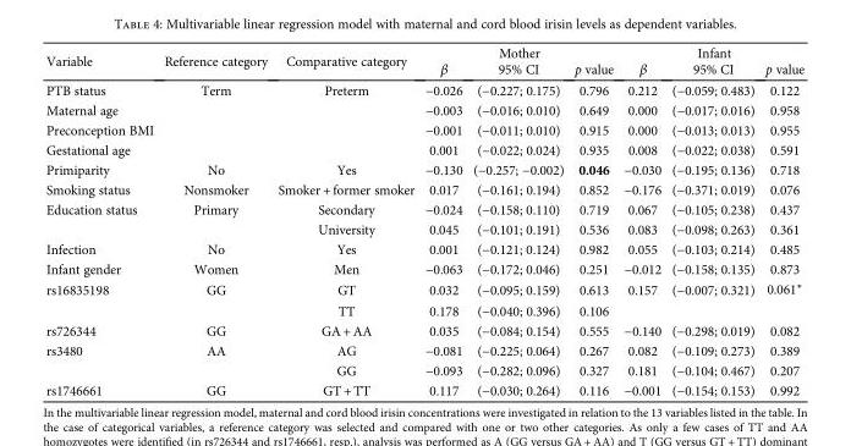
<table><thead><tr><td rowspan="2">Variable</td><td rowspan="2">Reference category</td><td rowspan="2">Comparative category</td><td colspan="3">Mother</td><td colspan="3">Infant</td></tr><tr><td>β</td><td>95% CI</td><td>p value</td><td>β</td><td>95% CI</td><td>p value</td></tr></thead><tbody><tr><td>PTB status</td><td>Term</td><td>Preterm</td><td>−0.026</td><td>(−0.227; 0.175)</td><td>0.796</td><td>0.212</td><td>(−0.059; 0.483)</td><td>0.122</td></tr><tr><td>Maternal age</td><td></td><td></td><td>−0.003</td><td>(−0.016; 0.010)</td><td>0.649</td><td>0.000</td><td>(−0.017; 0.016)</td><td>0.958</td></tr><tr><td>Preconception BMI</td><td></td><td></td><td>−0.001</td><td>(−0.011; 0.010)</td><td>0.915</td><td>0.000</td><td>(−0.013; 0.013)</td><td>0.955</td></tr><tr><td>Gestational age</td><td></td><td></td><td>0.001</td><td>(−0.022; 0.024)</td><td>0.935</td><td>0.008</td><td>(−0.022; 0.038)</td><td>0.591</td></tr><tr><td>Primiparity</td><td>No</td><td>Yes</td><td>−0.130</td><td>(−0.257; −0.002)</td><td>0.046</td><td>−0.030</td><td>(−0.195; 0.136)</td><td>0.718</td></tr><tr><td>Smoking status</td><td>Nonsmoker</td><td>Smoker + former smoker</td><td>0.017</td><td>(−0.161; 0.194)</td><td>0.852</td><td>−0.176</td><td>(−0.371; 0.019)</td><td>0.076</td></tr><tr><td rowspan="2">Education status</td><td>Primary</td><td>Secondary</td><td>−0.024</td><td>(−0.158; 0.110)</td><td>0.719</td><td>0.067</td><td>(−0.105; 0.238)</td><td>0.437</td></tr><tr><td></td><td>University</td><td>0.045</td><td>(−0.101; 0.191)</td><td>0.536</td><td>0.083</td><td>(−0.098; 0.263)</td><td>0.361</td></tr><tr><td>Infection</td><td>No</td><td>Yes</td><td>0.001</td><td>(−0.121; 0.124)</td><td>0.982</td><td>0.055</td><td>(−0.103; 0.214)</td><td>0.485</td></tr><tr><td>Infant gender</td><td>Women</td><td>Men</td><td>−0.063</td><td>(−0.172; 0.046)</td><td>0.251</td><td>−0.012</td><td>(−0.158; 0.135)</td><td>0.873</td></tr><tr><td rowspan="2">rs16835198</td><td>GG</td><td>GT</td><td>0.032</td><td>(−0.095; 0.159)</td><td>0.613</td><td>0.157</td><td>(−0.007; 0.321)</td><td>0.061∗</td></tr><tr><td></td><td>TT</td><td>0.178</td><td>(−0.040; 0.396)</td><td>0.106</td><td></td><td></td><td></td></tr><tr><td>rs726344</td><td>GG</td><td>GA + AA</td><td>0.035</td><td>(−0.084; 0.154)</td><td>0.555</td><td>−0.140</td><td>(−0.298; 0.019)</td><td>0.082</td></tr><tr><td rowspan="2">rs3480</td><td>AA</td><td>AG</td><td>−0.081</td><td>(−0.225; 0.064)</td><td>0.267</td><td>0.082</td><td>(−0.109; 0.273)</td><td>0.389</td></tr><tr><td></td><td>GG</td><td>−0.093</td><td>(−0.282; 0.096)</td><td>0.327</td><td>0.181</td><td>(−0.104; 0.467)</td><td>0.207</td></tr><tr><td>rs1746661</td><td>GG</td><td>GT + TT</td><td>0.117</td><td>(−0.030; 0.264)</td><td>0.116</td><td>−0.001</td><td>(−0.154; 0.153)</td><td>0.992</td></tr></tbody></table>